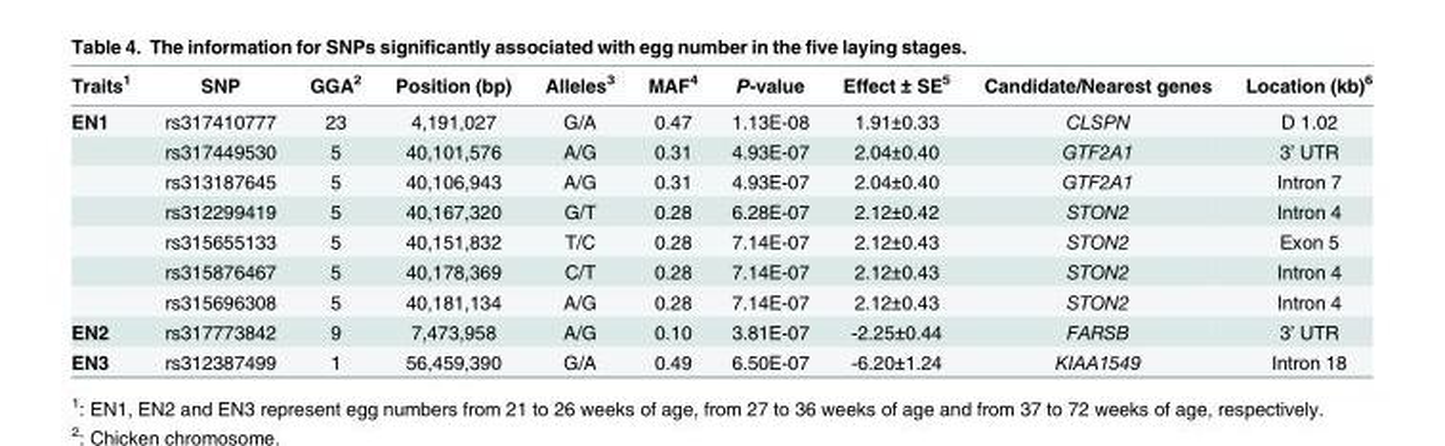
<table><thead><tr><td>Traits<sup>1</sup></td><td>SNP</td><td>GGA<sup>2</sup></td><td>Position (bp)</td><td>Alleles<sup>3</sup></td><td>MAF<sup>4</sup></td><td>P-value</td><td>Effect ± SE<sup>5</sup></td><td>Candidate/Nearest genes</td><td>Location (kb)<sup>6</sup></td></tr></thead><tbody><tr><td rowspan="7">EN1</td><td>rs317410777</td><td>23</td><td>4,191,027</td><td>G/A</td><td>0.47</td><td>1.13E-08</td><td>1.91±0.33</td><td>CLSPN</td><td>D 1.02</td></tr><tr><td>rs317449530</td><td>5</td><td>40,101,576</td><td>A/G</td><td>0.31</td><td>4.93E-07</td><td>2.04±0.40</td><td>GTF2A1</td><td>3’ UTR</td></tr><tr><td>rs313187645</td><td>5</td><td>40,106,943</td><td>A/G</td><td>0.31</td><td>4.93E-07</td><td>2.04±0.40</td><td>GTF2A1</td><td>Intron 7</td></tr><tr><td>rs312299419</td><td>5</td><td>40,167,320</td><td>G/T</td><td>0.28</td><td>6.28E-07</td><td>2.12±0.42</td><td>STON2</td><td>Intron 4</td></tr><tr><td>rs315655133</td><td>5</td><td>40,151,832</td><td>T/C</td><td>0.28</td><td>7.14E-07</td><td>2.12±0.43</td><td>STON2</td><td>Exon 5</td></tr><tr><td>rs315876467</td><td>5</td><td>40,178,369</td><td>C/T</td><td>0.28</td><td>7.14E-07</td><td>2.12±0.43</td><td>STON2</td><td>Intron 4</td></tr><tr><td>rs315696308</td><td>5</td><td>40,181,134</td><td>A/G</td><td>0.28</td><td>7.14E-07</td><td>2.12±0.43</td><td>STON2</td><td>Intron 4</td></tr><tr><td>EN2</td><td>rs317773842</td><td>9</td><td>7,473,958</td><td>A/G</td><td>0.10</td><td>3.81E-07</td><td>-2.25±0.44</td><td>FARSB</td><td>3’ UTR</td></tr><tr><td>EN3</td><td>rs312387499</td><td>1</td><td>56,459,390</td><td>G/A</td><td>0.49</td><td>6.50E-07</td><td>-6.20±1.24</td><td>KIAA1549</td><td>Intron 18</td></tr></tbody></table>